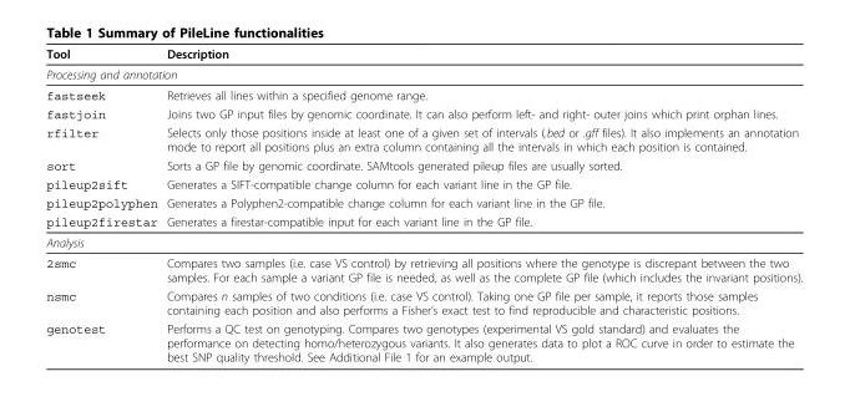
<table><thead><tr><td>Tool</td><td>Description</td></tr></thead><tbody><tr><td colspan="2">Processing and annotation</td></tr><tr><td>fastseek</td><td>Retrieves all lines within a specified genome range.</td></tr><tr><td>fastjoin</td><td>Joins two GP input files by genomic coordinate. It can also perform left- and right- outer joins which print orphan lines.</td></tr><tr><td>rfilter</td><td>Selects only those positions inside at least one of a given set of intervals (.bed or .gff files). It also implements an annotation mode to report all positions plus an extra column containing all the intervals in which each position is contained.</td></tr><tr><td>sort</td><td>Sorts a GP file by genomic coordinate. SAMtools generated pileup files are usually sorted.</td></tr><tr><td>pileup2sift</td><td>Generates a SIFT-compatible change column for each variant line in the GP file.</td></tr><tr><td>pileup2polyphen</td><td>Generates a Polyphen2-compatible change column for each variant line in the GP file.</td></tr><tr><td>pileup2firestar</td><td>Generates a firestar-compatible input for each variant line in the GP file.</td></tr><tr><td colspan="2">Analysis</td></tr><tr><td>2smc</td><td>Compares two samples (i.e. case VS control) by retrieving all positions where the genotype is discrepant between the two samples. For each sample a variant GP file is needed, as well as the complete GP file (which includes the invariant positions).</td></tr><tr><td>nsmc</td><td>Compares n samples of two conditions (i.e. case VS control). Taking one GP file per sample, it reports those samples containing each position and also performs a Fisher’s exact test to find reproducible and characteristic positions.</td></tr><tr><td>genotest</td><td>Performs a QC test on genotyping. Compares two genotypes (experimental VS gold standard) and evaluates the performance on detecting homo/heterozygous variants. It also generates data to plot a ROC curve in order to estimate the best SNP quality threshold. See Additional File 1 for an example output.</td></tr></tbody></table>